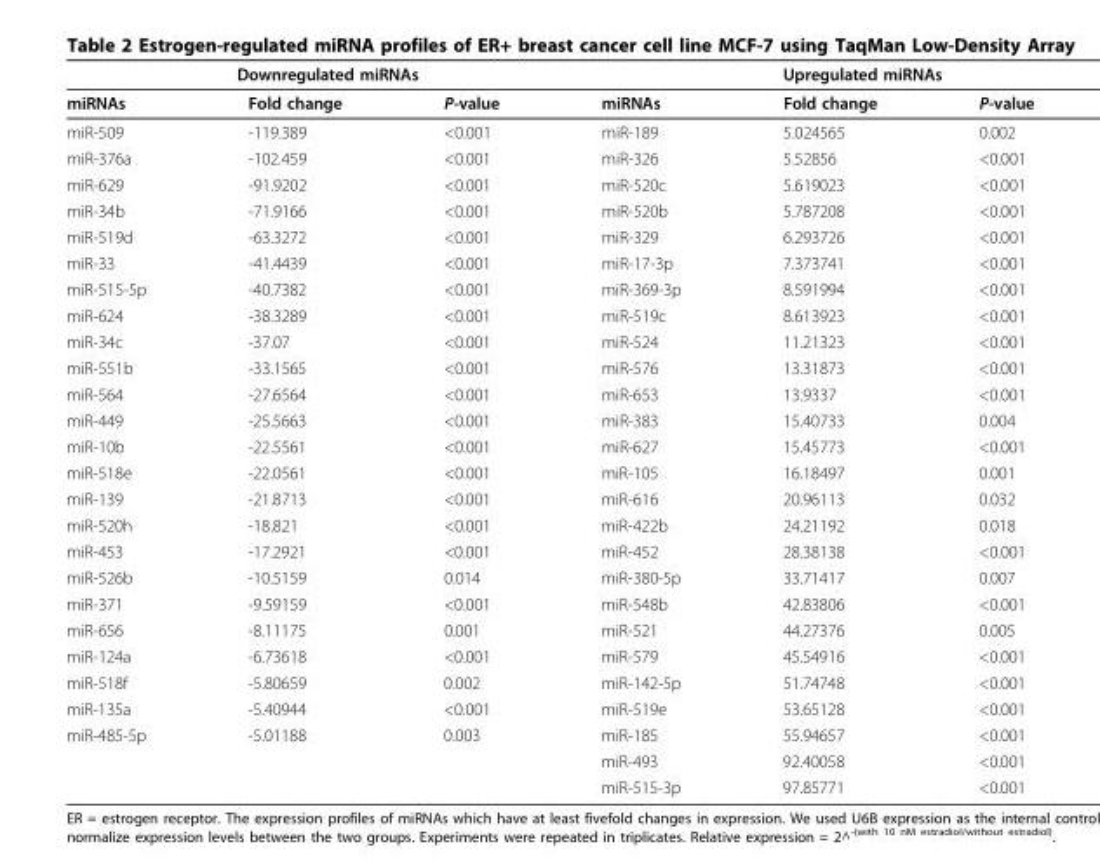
<table><thead><tr><td colspan="3">Downregulated miRNAs</td><td colspan="3">Upregulated miRNAs</td></tr><tr><td>miRNAs</td><td>Fold change</td><td>P-value</td><td>miRNAs</td><td>Fold change</td><td>P-value</td></tr></thead><tbody><tr><td>miR-509</td><td>-119.389</td><td>&lt;0.001</td><td>miR-189</td><td>5.024565</td><td>0.002</td></tr><tr><td>miR-376a</td><td>-102.459</td><td>&lt;0.001</td><td>miR-326</td><td>5.52856</td><td>&lt;0.001</td></tr><tr><td>miR-629</td><td>-91.9202</td><td>&lt;0.001</td><td>miR-520c</td><td>5.619023</td><td>&lt;0.001</td></tr><tr><td>miR-34b</td><td>-71.9166</td><td>&lt;0.001</td><td>miR-520b</td><td>5.787208</td><td>&lt;0.001</td></tr><tr><td>miR-519d</td><td>-63.3272</td><td>&lt;0.001</td><td>miR-329</td><td>6.293726</td><td>&lt;0.001</td></tr><tr><td>miR-33</td><td>-41.4439</td><td>&lt;0.001</td><td>miR-17-3p</td><td>7.373741</td><td>&lt;0.001</td></tr><tr><td>miR-515-5p</td><td>-40.7382</td><td>&lt;0.001</td><td>miR-369-3p</td><td>8.591994</td><td>&lt;0.001</td></tr><tr><td>miR-624</td><td>-38.3289</td><td>&lt;0.001</td><td>miR-519c</td><td>8.613923</td><td>&lt;0.001</td></tr><tr><td>miR-34c</td><td>-37.07</td><td>&lt;0.001</td><td>miR-524</td><td>11.21323</td><td>&lt;0.001</td></tr><tr><td>miR-551b</td><td>-33.1565</td><td>&lt;0.001</td><td>miR-576</td><td>13.31873</td><td>&lt;0.001</td></tr><tr><td>miR-564</td><td>-27.6564</td><td>&lt;0.001</td><td>miR-653</td><td>13.9337</td><td>&lt;0.001</td></tr><tr><td>miR-449</td><td>-25.5663</td><td>&lt;0.001</td><td>miR-383</td><td>15.40733</td><td>0.004</td></tr><tr><td>miR-10b</td><td>-22.5561</td><td>&lt;0.001</td><td>miR-627</td><td>15.45773</td><td>&lt;0.001</td></tr><tr><td>miR-518e</td><td>-22.0561</td><td>&lt;0.001</td><td>miR-105</td><td>16.18497</td><td>0.001</td></tr><tr><td>miR-139</td><td>-21.8713</td><td>&lt;0.001</td><td>miR-616</td><td>20.96113</td><td>0.032</td></tr><tr><td>miR-520h</td><td>-18.821</td><td>&lt;0.001</td><td>miR-422b</td><td>24.21192</td><td>0.018</td></tr><tr><td>miR-453</td><td>-17.2921</td><td>&lt;0.001</td><td>miR-452</td><td>28.38138</td><td>&lt;0.001</td></tr><tr><td>miR-526b</td><td>-10.5159</td><td>0.014</td><td>miR-380-5p</td><td>33.71417</td><td>0.007</td></tr><tr><td>miR-371</td><td>-9.59159</td><td>&lt;0.001</td><td>miR-548b</td><td>42.83806</td><td>&lt;0.001</td></tr><tr><td>miR-656</td><td>-8.11175</td><td>0.001</td><td>miR-521</td><td>44.27376</td><td>0.005</td></tr><tr><td>miR-124a</td><td>-6.73618</td><td>&lt;0.001</td><td>miR-579</td><td>45.54916</td><td>&lt;0.001</td></tr><tr><td>miR-518f</td><td>-5.80659</td><td>0.002</td><td>miR-142-5p</td><td>51.74748</td><td>&lt;0.001</td></tr><tr><td>miR-135a</td><td>-5.40944</td><td>&lt;0.001</td><td>miR-519e</td><td>53.65128</td><td>&lt;0.001</td></tr><tr><td rowspan="3">miR-485-5p</td><td>-5.01188</td><td>0.003</td><td>miR-185</td><td>55.94657</td><td>&lt;0.001</td></tr><tr><td></td><td></td><td>miR-493</td><td>92.40058</td><td>&lt;0.001</td></tr><tr><td></td><td></td><td>miR-515-3p</td><td>97.85771</td><td>&lt;0.001</td></tr></tbody></table>